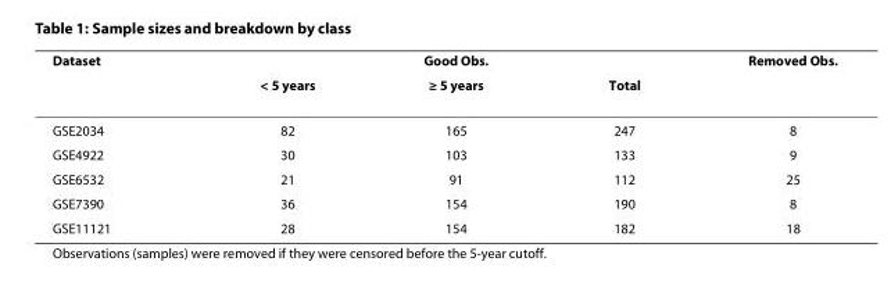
<table><thead><tr><td rowspan="2">Dataset</td><td colspan="3">Good Obs.</td><td rowspan="2">Removed Obs.</td></tr><tr><td>&lt; 5 years</td><td>≥ 5 years</td><td>Total</td></tr></thead><tbody><tr><td>GSE2034</td><td>82</td><td>165</td><td>247</td><td>8</td></tr><tr><td>GSE4922</td><td>30</td><td>103</td><td>133</td><td>9</td></tr><tr><td>GSE6532</td><td>21</td><td>91</td><td>112</td><td>25</td></tr><tr><td>GSE7390</td><td>36</td><td>154</td><td>190</td><td>8</td></tr><tr><td>GSE11121</td><td>28</td><td>154</td><td>182</td><td>18</td></tr></tbody></table>